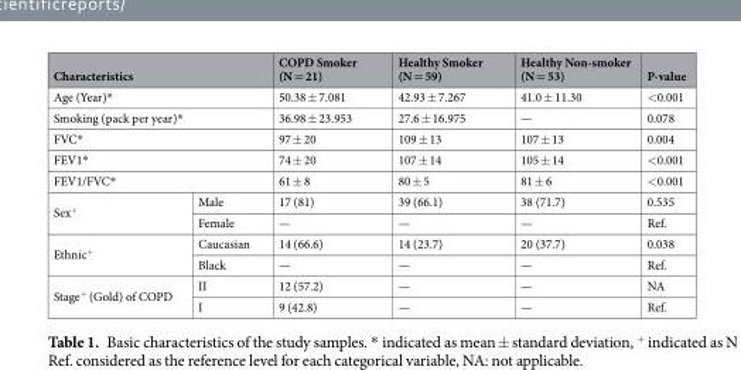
<table><thead><tr><td colspan="2">Characteristics</td><td>COPD Smoker (N = 21)</td><td>Healthy Smoker (N = 59)</td><td>Healthy Non-smoker (N = 53)</td><td>P-value</td></tr></thead><tbody><tr><td colspan="2">Age (Year)*</td><td>50.38 ± 7.081</td><td>42.93 ± 7.267</td><td>41.0 ± 11.30</td><td>&lt;0.001</td></tr><tr><td colspan="2">Smoking (pack per year)*</td><td>36.98 ± 23.953</td><td>27.6 ± 16.975</td><td>—</td><td>0.078</td></tr><tr><td colspan="2">FVC*</td><td>97 ± 20</td><td>109 ± 13</td><td>107 ± 13</td><td>0.004</td></tr><tr><td colspan="2">FEV1*</td><td>74 ± 20</td><td>107 ± 14</td><td>105 ± 14</td><td>&lt;0.001</td></tr><tr><td colspan="2">FEV1/FVC*</td><td>61 ± 8</td><td>80 ± 5</td><td>81 ± 6</td><td>&lt;0.001</td></tr><tr><td rowspan="2">Sex<sup>+</sup></td><td>Male</td><td>17 (81)</td><td>39 (66.1)</td><td>38 (71.7)</td><td>0.535</td></tr><tr><td>Female</td><td>—</td><td>—</td><td>—</td><td>Ref.</td></tr><tr><td rowspan="2">Ethnic<sup>+</sup></td><td>Caucasian</td><td>14 (66.6)</td><td>14 (23.7)</td><td>20 (37.7)</td><td>0.038</td></tr><tr><td>Black</td><td>—</td><td>—</td><td>—</td><td>Ref.</td></tr><tr><td rowspan="2">Stage<sup>+</sup> (Gold) of COPD</td><td>II</td><td>12 (57.2)</td><td>—</td><td>—</td><td>NA</td></tr><tr><td>I</td><td>9 (42.8)</td><td>—</td><td>—</td><td>Ref.</td></tr></tbody></table>